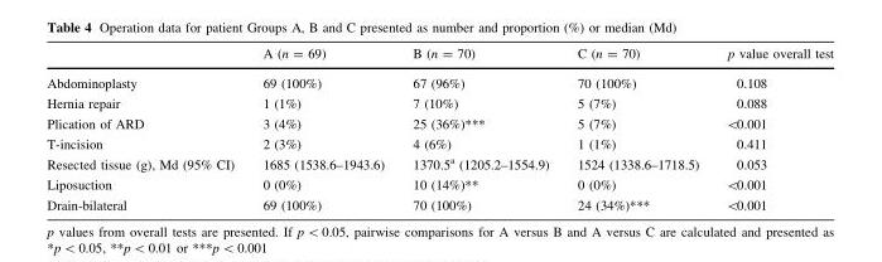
<table><thead><tr><td></td><td>A (n = 69)</td><td>B (n = 70)</td><td>C (n = 70)</td><td>p value overall test</td></tr></thead><tbody><tr><td>Abdominoplasty</td><td>69 (100%)</td><td>67 (96%)</td><td>70 (100%)</td><td>0.108</td></tr><tr><td>Hernia repair</td><td>1 (1%)</td><td>7 (10%)</td><td>5 (7%)</td><td>0.088</td></tr><tr><td>Plication of ARD</td><td>3 (4%)</td><td>25 (36%)***</td><td>5 (7%)</td><td>&lt;0.001</td></tr><tr><td>T-incision</td><td>2 (3%)</td><td>4 (6%)</td><td>1 (1%)</td><td>0.411</td></tr><tr><td>Resected tissue (g), Md (95% CI)</td><td>1685 (1538.6–1943.6)</td><td>1370.5<sup>a</sup> (1205.2–1554.9)</td><td>1524 (1338.6–1718.5)</td><td>0.053</td></tr><tr><td>Liposuction</td><td>0 (0%)</td><td>10 (14%)**</td><td>0 (0%)</td><td>&lt;0.001</td></tr><tr><td>Drain-bilateral</td><td>69 (100%)</td><td>70 (100%)</td><td>24 (34%)***</td><td>&lt;0.001</td></tr></tbody></table>